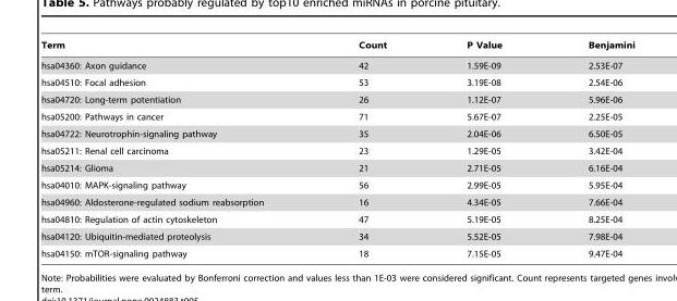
<table><thead><tr><td>Term</td><td>Count</td><td>P Value</td><td>Benjamini</td></tr></thead><tbody><tr><td>hsa04360: Axon guidance</td><td>42</td><td>1.59E-09</td><td>2.53E-07</td></tr><tr><td>hsa04510: Focal adhesion</td><td>53</td><td>3.19E-08</td><td>2.54E-06</td></tr><tr><td>hsa04720: Long-term potentiation</td><td>26</td><td>1.12E-07</td><td>5.96E-06</td></tr><tr><td>hsa05200: Pathways in cancer</td><td>71</td><td>5.67E-07</td><td>2.25E-05</td></tr><tr><td>hsa04722: Neurotrophin-signaling pathway</td><td>35</td><td>2.04E-06</td><td>6.50E-05</td></tr><tr><td>hsa05211: Renal cell carcinoma</td><td>23</td><td>1.29E-05</td><td>3.42E-04</td></tr><tr><td>hsa05214: Glioma</td><td>21</td><td>2.71E-05</td><td>6.16E-04</td></tr><tr><td>hsa04010: MAPK-signaling pathway</td><td>56</td><td>2.99E-05</td><td>5.95E-04</td></tr><tr><td>hsa04960: Aldosterone-regulated sodium reabsorption</td><td>16</td><td>4.34E-05</td><td>7.66E-04</td></tr><tr><td>hsa04810: Regulation of actin cytoskeleton</td><td>47</td><td>5.19E-05</td><td>8.25E-04</td></tr><tr><td>hsa04120: Ubiquitin-mediated proteolysis</td><td>34</td><td>5.52E-05</td><td>7.98E-04</td></tr><tr><td>hsa04150: mTOR-signaling pathway</td><td>18</td><td>7.15E-05</td><td>9.47E-04</td></tr></tbody></table>